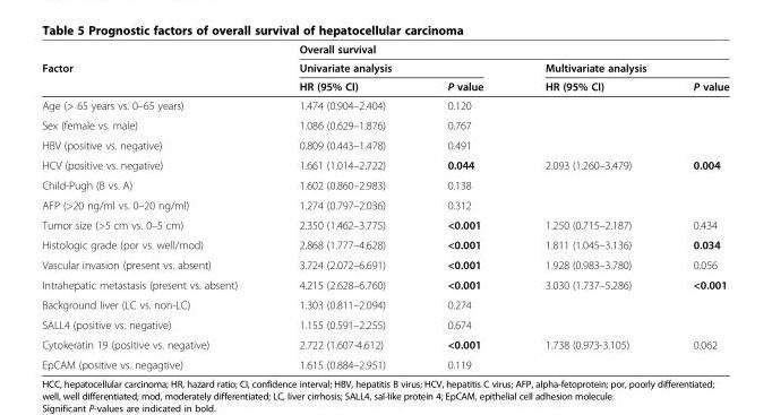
<table><thead><tr><td rowspan="3">Factor</td><td colspan="4">Overall survival</td></tr><tr><td colspan="2">Univariate analysis</td><td colspan="2">Multivariate analysis</td></tr><tr><td>HR (95% CI)</td><td>P value</td><td>HR (95% CI)</td><td>P value</td></tr></thead><tbody><tr><td>Age (&gt; 65 years vs. 0–65 years)</td><td>1.474 (0.904–2.404)</td><td>0.120</td><td></td><td></td></tr><tr><td>Sex (female vs. male)</td><td>1.086 (0.629–1.876)</td><td>0.767</td><td></td><td></td></tr><tr><td>HBV (positive vs. negative)</td><td>0.809 (0.443–1.478)</td><td>0.491</td><td></td><td></td></tr><tr><td>HCV (positive vs. negative)</td><td>1.661 (1.014–2.722)</td><td>0.044</td><td>2.093 (1.260–3.479)</td><td>0.004</td></tr><tr><td>Child-Pugh (B vs. A)</td><td>1.602 (0.860–2.983)</td><td>0.138</td><td></td><td></td></tr><tr><td>AFP (&gt;20 ng/ml vs. 0–20 ng/ml)</td><td>1.274 (0.797–2.036)</td><td>0.312</td><td></td><td></td></tr><tr><td>Tumor size (&gt;5 cm vs. 0–5 cm)</td><td>2.350 (1.462–3.775)</td><td>&lt;0.001</td><td>1.250 (0.715–2.187)</td><td>0.434</td></tr><tr><td>Histologic grade (por vs. well/mod)</td><td>2.868 (1.777–4.628)</td><td>&lt;0.001</td><td>1.811 (1.045–3.136)</td><td>0.034</td></tr><tr><td>Vascular invasion (present vs. absent)</td><td>3.724 (2.072–6.691)</td><td>&lt;0.001</td><td>1.928 (0.983–3.780)</td><td>0.056</td></tr><tr><td>Intrahepatic metastasis (present vs. absent)</td><td>4.215 (2.628–6.760)</td><td>&lt;0.001</td><td>3.030 (1.737–5.286)</td><td>&lt;0.001</td></tr><tr><td>Background liver (LC vs. non-LC)</td><td>1.303 (0.811–2.094)</td><td>0.274</td><td></td><td></td></tr><tr><td>SALL4 (positive vs. negative)</td><td>1.155 (0.591–2.255)</td><td>0.674</td><td></td><td></td></tr><tr><td>Cytokeratin 19 (positive vs. negative)</td><td>2.722 (1.607-4.612)</td><td>&lt;0.001</td><td>1.738 (0.973-3.105)</td><td>0.062</td></tr><tr><td>EpCAM (positive vs. negagtive)</td><td>1.615 (0.884–2.951)</td><td>0.119</td><td></td><td></td></tr></tbody></table>